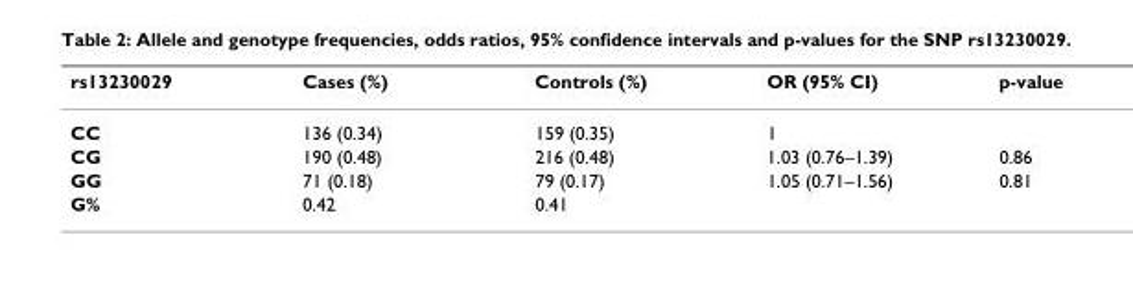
<table><thead><tr><td>rs13230029</td><td>Cases (%)</td><td>Controls (%)</td><td>OR (95% CI)</td><td>p-value</td></tr></thead><tbody><tr><td>CC</td><td>136 (0.34)</td><td>159 (0.35)</td><td>1</td><td></td></tr><tr><td>CG</td><td>190 (0.48)</td><td>216 (0.48)</td><td>1.03 (0.76–1.39)</td><td>0.86</td></tr><tr><td>GG</td><td>71 (0.18)</td><td>79 (0.17)</td><td>1.05 (0.71–1.56)</td><td>0.81</td></tr><tr><td>G%</td><td>0.42</td><td>0.41</td><td></td><td></td></tr></tbody></table>